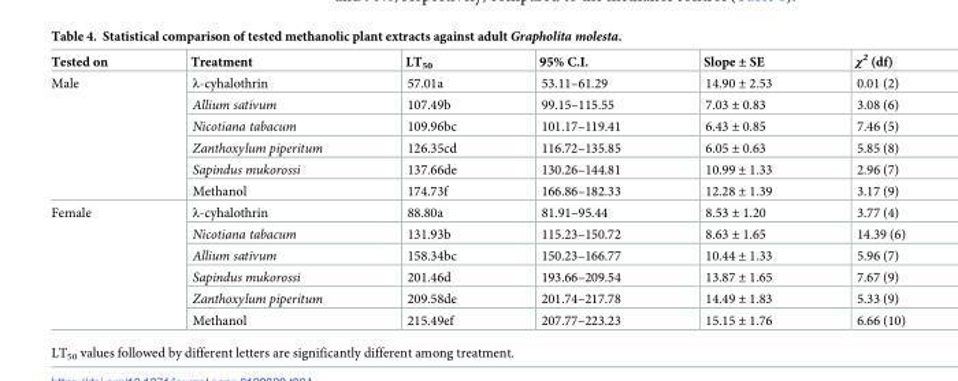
<table><thead><tr><td>Tested on</td><td>Treatment</td><td>LT<sub>50</sub></td><td>95% C.I.</td><td>Slope ± SE</td><td>χ<sup>2</sup> (df)</td></tr></thead><tbody><tr><td rowspan="6">Male</td><td>λ-cyhalothrin</td><td>57.01a</td><td>53.11–61.29</td><td>14.90 ± 2.53</td><td>0.01 (2)</td></tr><tr><td>Allium sativum</td><td>107.49b</td><td>99.15–115.55</td><td>7.03 ± 0.83</td><td>3.08 (6)</td></tr><tr><td>Nicotiana tabacum</td><td>109.96bc</td><td>101.17–119.41</td><td>6.43 ± 0.85</td><td>7.46 (5)</td></tr><tr><td>Zanthoxylum piperitum</td><td>126.35cd</td><td>116.72–135.85</td><td>6.05 ± 0.63</td><td>5.85 (8)</td></tr><tr><td>Sapindus mukorossi</td><td>137.66de</td><td>130.26–144.81</td><td>10.99 ± 1.33</td><td>2.96 (7)</td></tr><tr><td>Methanol</td><td>174.73f</td><td>166.86–182.33</td><td>12.28 ± 1.39</td><td>3.17 (9)</td></tr><tr><td rowspan="6">Female</td><td>λ-cyhalothrin</td><td>88.80a</td><td>81.91–95.44</td><td>8.53 ± 1.20</td><td>3.77 (4)</td></tr><tr><td>Nicotiana tabacum</td><td>131.93b</td><td>115.23–150.72</td><td>8.63 ± 1.65</td><td>14.39 (6)</td></tr><tr><td>Allium sativum</td><td>158.34bc</td><td>150.23–166.77</td><td>10.44 ± 1.33</td><td>5.96 (7)</td></tr><tr><td>Sapindus mukorossi</td><td>201.46d</td><td>193.66–209.54</td><td>13.87 ± 1.65</td><td>7.67 (9)</td></tr><tr><td>Zanthoxylum piperitum</td><td>209.58de</td><td>201.74–217.78</td><td>14.49 ± 1.83</td><td>5.33 (9)</td></tr><tr><td>Methanol</td><td>215.49ef</td><td>207.77–223.23</td><td>15.15 ± 1.76</td><td>6.66 (10)</td></tr></tbody></table>